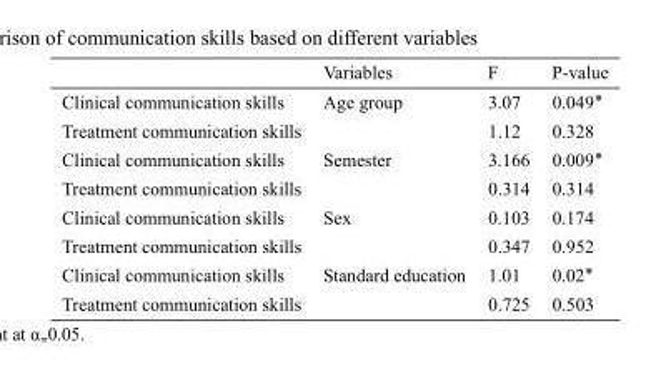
<table><thead><tr><td></td><td>Variables</td><td>F</td><td>P-value</td></tr></thead><tbody><tr><td>Clinical communication skills</td><td rowspan="2">Age group</td><td>3.07</td><td>0.049٭</td></tr><tr><td>Treatment communication skills</td><td>1.12</td><td>0.328</td></tr><tr><td>Clinical communication skills</td><td rowspan="2">Semester</td><td>3.166</td><td>0.009٭</td></tr><tr><td>Treatment communication skills</td><td>0.314</td><td>0.314</td></tr><tr><td>Clinical communication skills</td><td rowspan="2">Sex</td><td>0.103</td><td>0.174</td></tr><tr><td>Treatment communication skills</td><td>0.347</td><td>0.952</td></tr><tr><td>Clinical communication skills</td><td rowspan="2">Standard education</td><td>1.01</td><td>0.02٭</td></tr><tr><td>Treatment communication skills</td><td>0.725</td><td>0.503</td></tr></tbody></table>